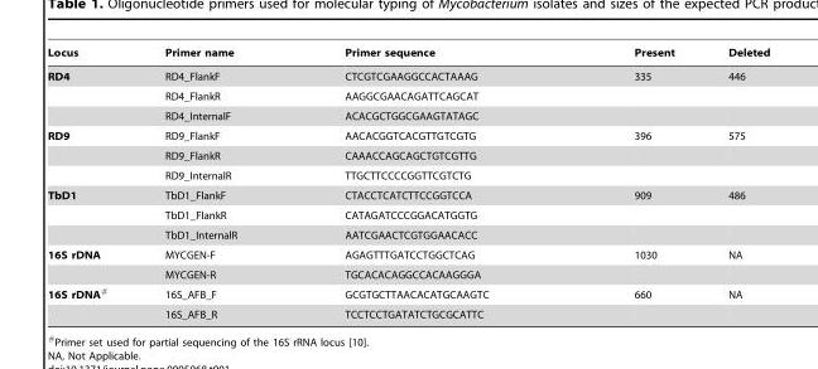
<table><thead><tr><td>Locus</td><td>Primer name</td><td>Primer sequence</td><td>Present</td><td>Deleted</td></tr></thead><tbody><tr><td rowspan="3">RD4</td><td>RD4_FlankF</td><td>CTCGTCGAAGGCCACTAAAG</td><td>335</td><td>446</td></tr><tr><td>RD4_FlankR</td><td>AAGGCGAACAGATTCAGCAT</td><td></td><td></td></tr><tr><td>RD4_InternalF</td><td>ACACGCTGGCGAAGTATAGC</td><td></td><td></td></tr><tr><td rowspan="3">RD9</td><td>RD9_FlankF</td><td>AACACGGTCACGTTGTCGTG</td><td>396</td><td>575</td></tr><tr><td>RD9_FlankR</td><td>CAAACCAGCAGCTGTCGTTG</td><td></td><td></td></tr><tr><td>RD9_InternalR</td><td>TTGCTTCCCCGGTTCGTCTG</td><td></td><td></td></tr><tr><td rowspan="3">TbD1</td><td>TbD1_FlankF</td><td>CTACCTCATCTTCCGGTCCA</td><td>909</td><td>486</td></tr><tr><td>TbD1_FlankR</td><td>CATAGATCCCGGACATGGTG</td><td></td><td></td></tr><tr><td>TbD1_InternalR</td><td>AATCGAACTCGTGGAACACC</td><td></td><td></td></tr><tr><td rowspan="2">16S rDNA</td><td>MYCGEN-F</td><td>AGAGTTTGATCCTGGCTCAG</td><td>1030</td><td>NA</td></tr><tr><td>MYCGEN-R</td><td>TGCACACAGGCCACAAGGGA</td><td></td><td></td></tr><tr><td rowspan="2">16S rDNA#</td><td>16S_AFB_F</td><td>GCGTGCTTAACACATGCAAGTC</td><td>660</td><td>NA</td></tr><tr><td>16S_AFB_R</td><td>TCCTCCTGATATCTGCGCATTC</td><td></td><td></td></tr></tbody></table>